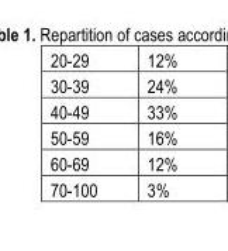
<table><tbody><tr><td>20-29</td><td>12%</td></tr><tr><td>30-39</td><td>24%</td></tr><tr><td>40-49</td><td>33%</td></tr><tr><td>50-59</td><td>16%</td></tr><tr><td>60-69</td><td>12%</td></tr><tr><td>70-100</td><td>3%</td></tr></tbody></table>